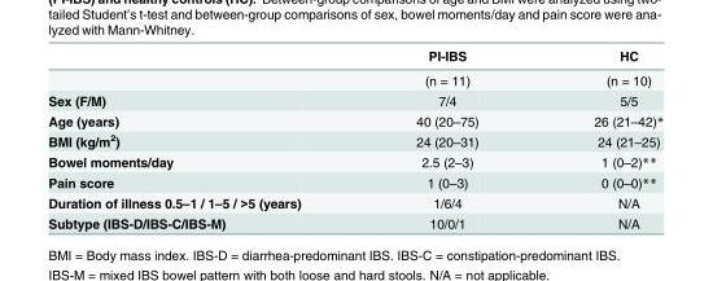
<table><thead><tr><td></td><td>PI-IBS</td><td>HC</td></tr></thead><tbody><tr><td></td><td>(n = 11)</td><td>(n = 10)</td></tr><tr><td>Sex (F/M)</td><td>7/4</td><td>5/5</td></tr><tr><td>Age (years)</td><td>40 (20–75)</td><td>26 (21–42)*</td></tr><tr><td>BMI (kg/m<sup>2</sup>)</td><td>24 (20–31)</td><td>24 (21–25)</td></tr><tr><td>Bowel moments/day</td><td>2.5 (2–3)</td><td>1 (0–2)**</td></tr><tr><td>Pain score</td><td>1 (0–3)</td><td>0 (0–0)**</td></tr><tr><td>Duration of illness 0.5–1 / 1–5 / &gt;5 (years)</td><td>1/6/4</td><td>N/A</td></tr><tr><td>Subtype (IBS-D/IBS-C/IBS-M)</td><td>10/0/1</td><td>N/A</td></tr></tbody></table>